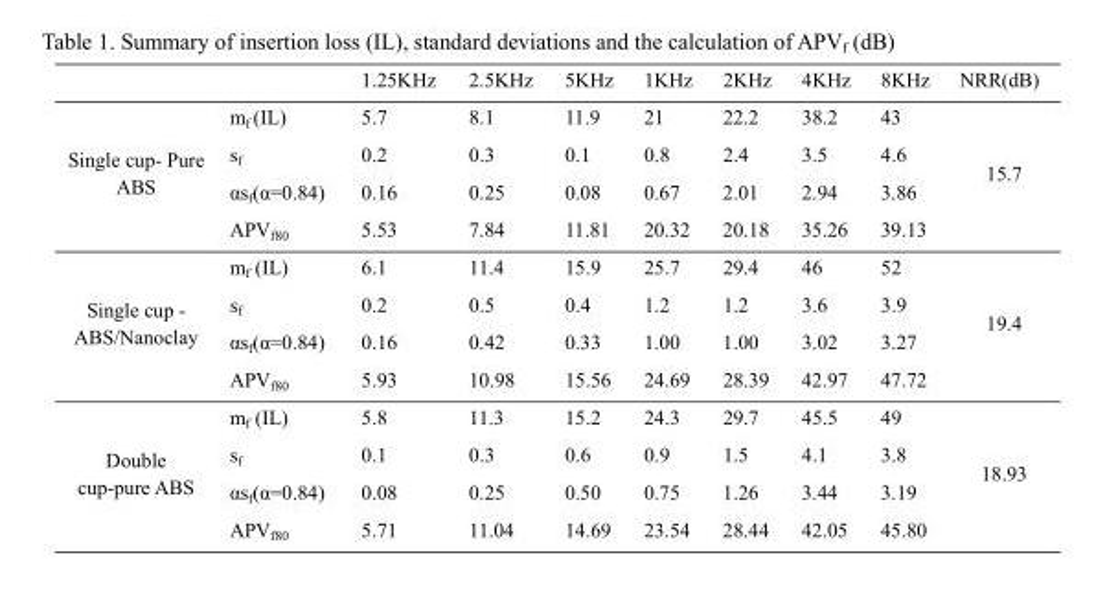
<table><thead><tr><td></td><td></td><td>1.25KHz</td><td>2.5KHz</td><td>5KHz</td><td>1KHz</td><td>2KHz</td><td>4KHz</td><td>8KHz</td><td>NRR(dB)</td></tr></thead><tbody><tr><td rowspan="4">Single cup- Pure ABS</td><td>m<sub>f</sub> (IL)</td><td>5.7</td><td>8.1</td><td>11.9</td><td>21</td><td>22.2</td><td>38.2</td><td>43</td><td rowspan="4">15.7</td></tr><tr><td>s<sub>f</sub></td><td>0.2</td><td>0.3</td><td>0.1</td><td>0.8</td><td>2.4</td><td>3.5</td><td>4.6</td></tr><tr><td>αs<sub>f</sub>(α=0.84)</td><td>0.16</td><td>0.25</td><td>0.08</td><td>0.67</td><td>2.01</td><td>2.94</td><td>3.86</td></tr><tr><td>APV<sub>f80</sub></td><td>5.53</td><td>7.84</td><td>11.81</td><td>20.32</td><td>20.18</td><td>35.26</td><td>39.13</td></tr><tr><td rowspan="4">Single cup - ABS/Nanoclay</td><td>m<sub>f</sub> (IL)</td><td>6.1</td><td>11.4</td><td>15.9</td><td>25.7</td><td>29.4</td><td>46</td><td>52</td><td rowspan="4">19.4</td></tr><tr><td>s<sub>f</sub></td><td>0.2</td><td>0.5</td><td>0.4</td><td>1.2</td><td>1.2</td><td>3.6</td><td>3.9</td></tr><tr><td>αs<sub>f</sub>(α=0.84)</td><td>0.16</td><td>0.42</td><td>0.33</td><td>1.00</td><td>1.00</td><td>3.02</td><td>3.27</td></tr><tr><td>APV<sub>f80</sub></td><td>5.93</td><td>10.98</td><td>15.56</td><td>24.69</td><td>28.39</td><td>42.97</td><td>47.72</td></tr><tr><td rowspan="4">Double cup-pure ABS</td><td>m<sub>f</sub> (IL)</td><td>5.8</td><td>11.3</td><td>15.2</td><td>24.3</td><td>29.7</td><td>45.5</td><td>49</td><td rowspan="4">18.93</td></tr><tr><td>s<sub>f</sub></td><td>0.1</td><td>0.3</td><td>0.6</td><td>0.9</td><td>1.5</td><td>4.1</td><td>3.8</td></tr><tr><td>αs<sub>f</sub>(α=0.84)</td><td>0.08</td><td>0.25</td><td>0.50</td><td>0.75</td><td>1.26</td><td>3.44</td><td>3.19</td></tr><tr><td>APV<sub>f80</sub></td><td>5.71</td><td>11.04</td><td>14.69</td><td>23.54</td><td>28.44</td><td>42.05</td><td>45.80</td></tr></tbody></table>